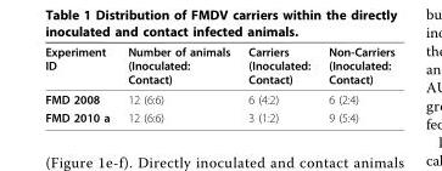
<table><thead><tr><td>Experiment ID</td><td>Number of animals (Inoculated: Contact)</td><td>Carriers (Inoculated: Contact)</td><td>Non-Carriers (Inoculated: Contact)</td></tr></thead><tbody><tr><td>FMD 2008</td><td>12 (6:6)</td><td>6 (4:2)</td><td>6 (2:4)</td></tr><tr><td>FMD 2010 a</td><td>12 (6:6)</td><td>3 (1:2)</td><td>9 (5:4)</td></tr></tbody></table>